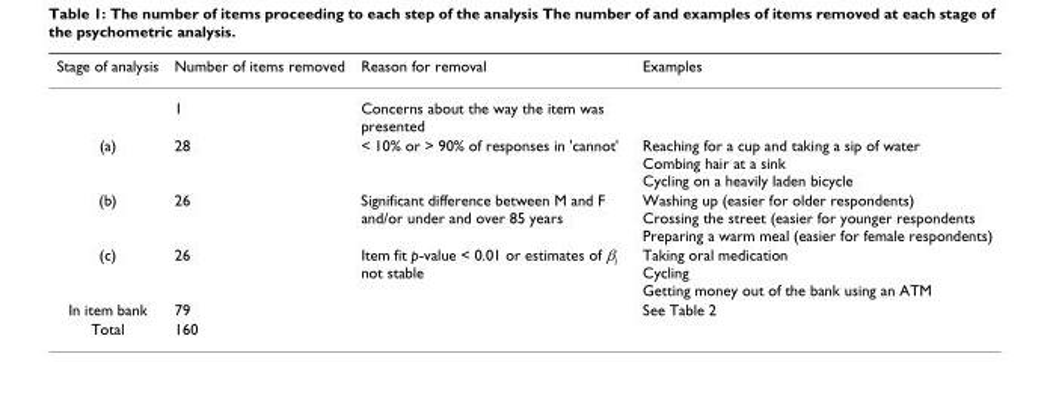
<table><thead><tr><td>Stage of analysis</td><td>Number of items removed</td><td>Reason for removal</td><td>Examples</td></tr></thead><tbody><tr><td></td><td>1</td><td>Concerns about the way the item was presented</td><td></td></tr><tr><td>(a)</td><td>28</td><td>&lt; 10% or &gt; 90% of responses in &#x27;cannot&#x27;</td><td>Reaching for a cup and taking a sip of water Combing hair at a sink Cycling on a heavily laden bicycle</td></tr><tr><td>(b)</td><td>26</td><td>Significant difference between M and F and/or under and over 85 years</td><td>Washing up (easier for older respondents) Crossing the street (easier for younger respondents Preparing a warm meal (easier for female respondents)</td></tr><tr><td>(c)</td><td>26</td><td>Item fit p-value &lt; 0.01 or estimates of β<sub>i</sub> not stable</td><td>Taking oral medication Cycling Getting money out of the bank using an ATM</td></tr><tr><td>In item bank</td><td>79</td><td></td><td>See Table 2</td></tr><tr><td>Total</td><td>160</td><td></td><td></td></tr></tbody></table>